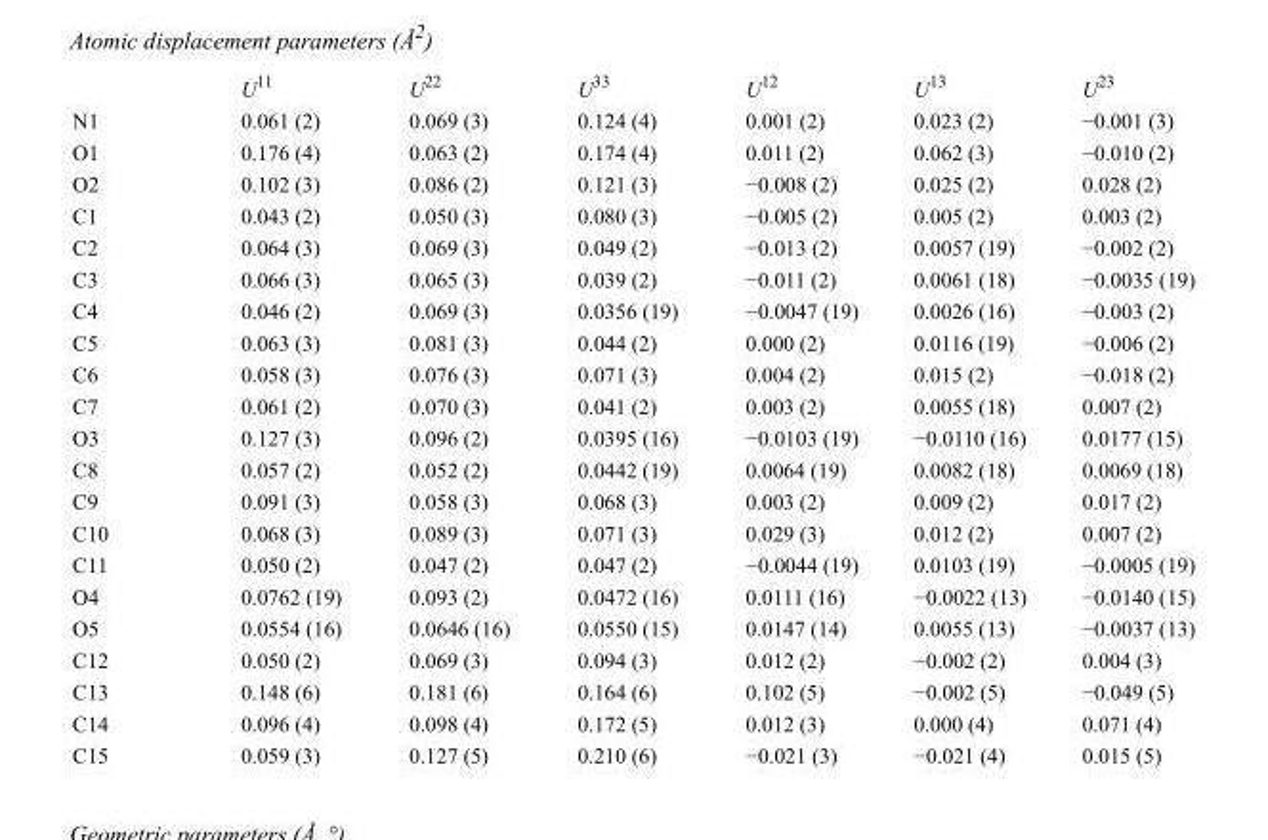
<table><thead><tr><td></td><td>U<sup>11</sup></td><td>U<sup>22</sup></td><td>U<sup>33</sup></td><td>U<sup>12</sup></td><td>U<sup>13</sup></td><td>U<sup>23</sup></td></tr></thead><tbody><tr><td>N1</td><td>0.061 (2)</td><td>0.069 (3)</td><td>0.124 (4)</td><td>0.001 (2)</td><td>0.023 (2)</td><td>−0.001 (3)</td></tr><tr><td>O1</td><td>0.176 (4)</td><td>0.063 (2)</td><td>0.174 (4)</td><td>0.011 (2)</td><td>0.062 (3)</td><td>−0.010 (2)</td></tr><tr><td>O2</td><td>0.102 (3)</td><td>0.086 (2)</td><td>0.121 (3)</td><td>−0.008 (2)</td><td>0.025 (2)</td><td>0.028 (2)</td></tr><tr><td>C1</td><td>0.043 (2)</td><td>0.050 (3)</td><td>0.080 (3)</td><td>−0.005 (2)</td><td>0.005 (2)</td><td>0.003 (2)</td></tr><tr><td>C2</td><td>0.064 (3)</td><td>0.069 (3)</td><td>0.049 (2)</td><td>−0.013 (2)</td><td>0.0057 (19)</td><td>−0.002 (2)</td></tr><tr><td>C3</td><td>0.066 (3)</td><td>0.065 (3)</td><td>0.039 (2)</td><td>−0.011 (2)</td><td>0.0061 (18)</td><td>−0.0035 (19)</td></tr><tr><td>C4</td><td>0.046 (2)</td><td>0.069 (3)</td><td>0.0356 (19)</td><td>−0.0047 (19)</td><td>0.0026 (16)</td><td>−0.003 (2)</td></tr><tr><td>C5</td><td>0.063 (3)</td><td>0.081 (3)</td><td>0.044 (2)</td><td>0.000 (2)</td><td>0.0116 (19)</td><td>−0.006 (2)</td></tr><tr><td>C6</td><td>0.058 (3)</td><td>0.076 (3)</td><td>0.071 (3)</td><td>0.004 (2)</td><td>0.015 (2)</td><td>−0.018 (2)</td></tr><tr><td>C7</td><td>0.061 (2)</td><td>0.070 (3)</td><td>0.041 (2)</td><td>0.003 (2)</td><td>0.0055 (18)</td><td>0.007 (2)</td></tr><tr><td>O3</td><td>0.127 (3)</td><td>0.096 (2)</td><td>0.0395 (16)</td><td>−0.0103 (19)</td><td>−0.0110 (16)</td><td>0.0177 (15)</td></tr><tr><td>C8</td><td>0.057 (2)</td><td>0.052 (2)</td><td>0.0442 (19)</td><td>0.0064 (19)</td><td>0.0082 (18)</td><td>0.0069 (18)</td></tr><tr><td>C9</td><td>0.091 (3)</td><td>0.058 (3)</td><td>0.068 (3)</td><td>0.003 (2)</td><td>0.009 (2)</td><td>0.017 (2)</td></tr><tr><td>C10</td><td>0.068 (3)</td><td>0.089 (3)</td><td>0.071 (3)</td><td>0.029 (3)</td><td>0.012 (2)</td><td>0.007 (2)</td></tr><tr><td>C11</td><td>0.050 (2)</td><td>0.047 (2)</td><td>0.047 (2)</td><td>−0.0044 (19)</td><td>0.0103 (19)</td><td>−0.0005 (19)</td></tr><tr><td>O4</td><td>0.0762 (19)</td><td>0.093 (2)</td><td>0.0472 (16)</td><td>0.0111 (16)</td><td>−0.0022 (13)</td><td>−0.0140 (15)</td></tr><tr><td>O5</td><td>0.0554 (16)</td><td>0.0646 (16)</td><td>0.0550 (15)</td><td>0.0147 (14)</td><td>0.0055 (13)</td><td>−0.0037 (13)</td></tr><tr><td>C12</td><td>0.050 (2)</td><td>0.069 (3)</td><td>0.094 (3)</td><td>0.012 (2)</td><td>−0.002 (2)</td><td>0.004 (3)</td></tr><tr><td>C13</td><td>0.148 (6)</td><td>0.181 (6)</td><td>0.164 (6)</td><td>0.102 (5)</td><td>−0.002 (5)</td><td>−0.049 (5)</td></tr><tr><td>C14</td><td>0.096 (4)</td><td>0.098 (4)</td><td>0.172 (5)</td><td>0.012 (3)</td><td>0.000 (4)</td><td>0.071 (4)</td></tr><tr><td>C15</td><td>0.059 (3)</td><td>0.127 (5)</td><td>0.210 (6)</td><td>−0.021 (3)</td><td>−0.021 (4)</td><td>0.015 (5)</td></tr></tbody></table>